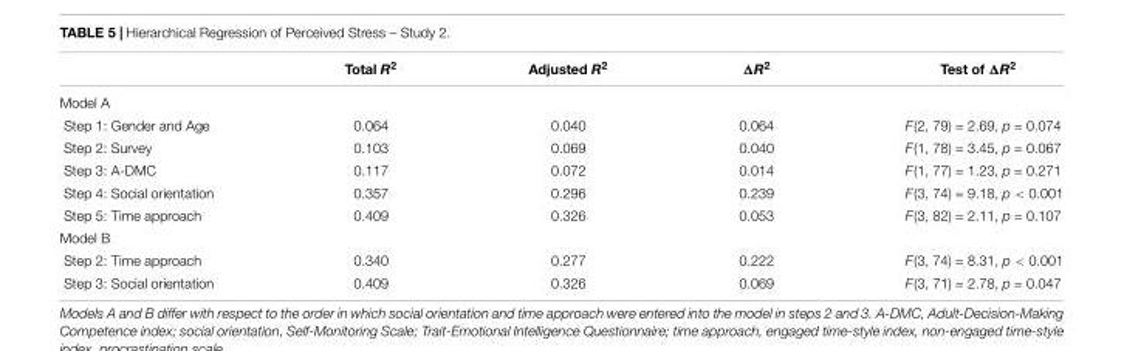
<table><thead><tr><td></td><td>Total R<sup>2</sup></td><td>Adjusted R<sup>2</sup></td><td>ΔR<sup>2</sup></td><td>Test of ΔR<sup>2</sup></td></tr></thead><tbody><tr><td colspan="5">Model A</td></tr><tr><td>Step 1: Gender and Age</td><td>0.064</td><td>0.040</td><td>0.064</td><td>F(2, 79) = 2.69, p = 0.074</td></tr><tr><td>Step 2: Survey</td><td>0.103</td><td>0.069</td><td>0.040</td><td>F(1, 78) = 3.45, p = 0.067</td></tr><tr><td>Step 3: A-DMC</td><td>0.117</td><td>0.072</td><td>0.014</td><td>F(1, 77) = 1.23, p = 0.271</td></tr><tr><td>Step 4: Social orientation</td><td>0.357</td><td>0.296</td><td>0.239</td><td>F(3, 74) = 9.18, p &lt; 0.001</td></tr><tr><td>Step 5: Time approach</td><td>0.409</td><td>0.326</td><td>0.053</td><td>F(3, 82) = 2.11, p = 0.107</td></tr><tr><td colspan="5">Model B</td></tr><tr><td>Step 2: Time approach</td><td>0.340</td><td>0.277</td><td>0.222</td><td>F(3, 74) = 8.31, p &lt; 0.001</td></tr><tr><td>Step 3: Social orientation</td><td>0.409</td><td>0.326</td><td>0.069</td><td>F(3, 71) = 2.78, p = 0.047</td></tr></tbody></table>